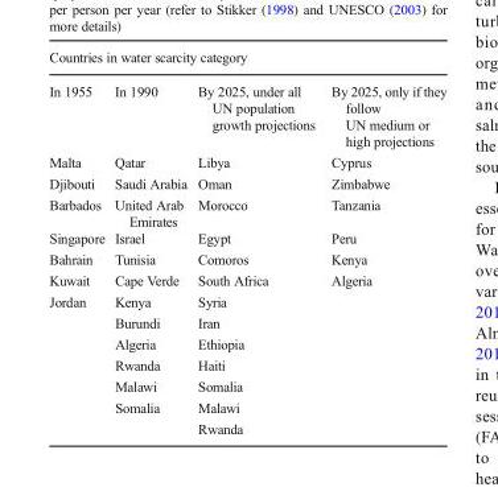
<table><thead><tr><td colspan="4">Countries in water scarcity category</td></tr><tr><td>In 1955</td><td>In 1990</td><td>By 2025, under all UN population growth projections</td><td>By 2025, only if they follow UN medium or high projections</td></tr></thead><tbody><tr><td>Malta</td><td>Qatar</td><td>Libya</td><td>Cyprus</td></tr><tr><td>Djibouti</td><td>Saudi Arabia</td><td>Oman</td><td>Zimbabwe</td></tr><tr><td>Barbados</td><td>United Arab Emirates</td><td>Morocco</td><td>Tanzania</td></tr><tr><td>Singapore</td><td>Israel</td><td>Egypt</td><td>Peru</td></tr><tr><td>Bahrain</td><td>Tunisia</td><td>Comoros</td><td>Kenya</td></tr><tr><td>Kuwait</td><td>Cape Verde</td><td>South Africa</td><td>Algeria</td></tr><tr><td rowspan="7">Jordan</td><td>Kenya</td><td>Syria</td><td></td></tr><tr><td>Burundi</td><td>Iran</td><td></td></tr><tr><td>Algeria</td><td>Ethiopia</td><td></td></tr><tr><td>Rwanda</td><td>Haiti</td><td></td></tr><tr><td>Malawi</td><td>Somalia</td><td></td></tr><tr><td>Somalia</td><td>Malawi</td><td></td></tr><tr><td></td><td>Rwanda</td><td></td></tr></tbody></table>